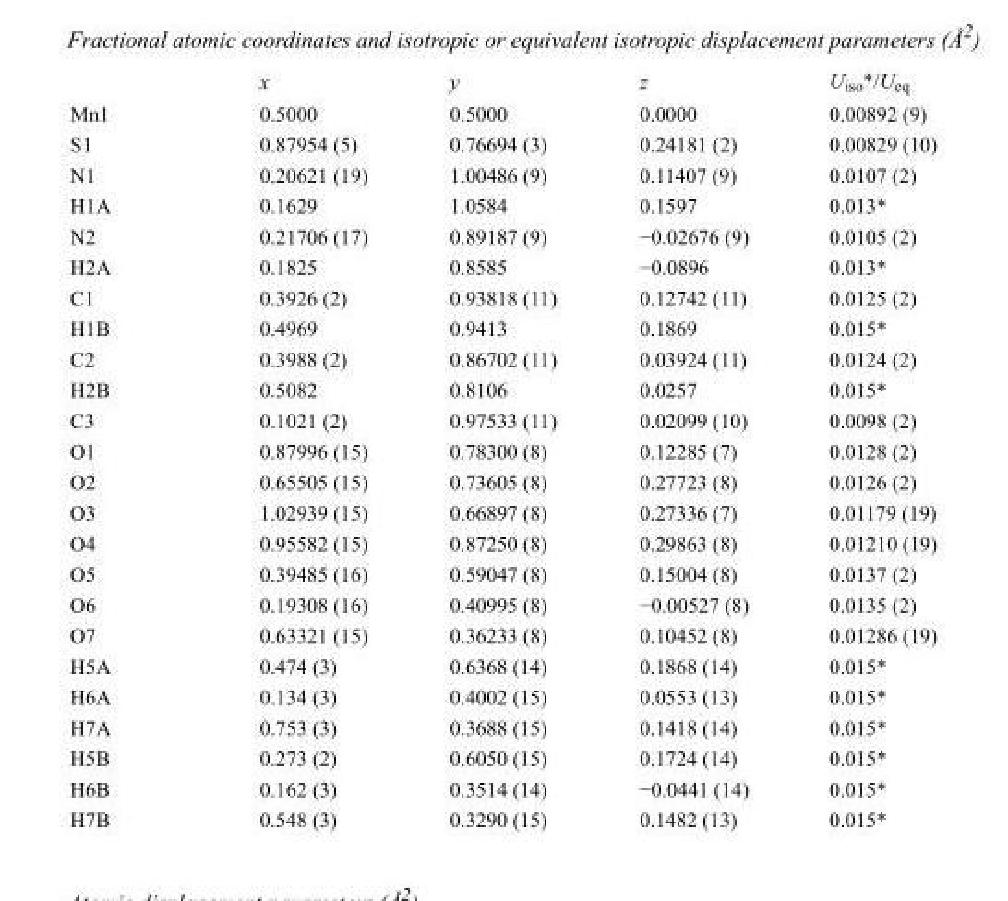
<table><thead><tr><td></td><td>x</td><td>y</td><td>z</td><td>U<sub>iso</sub>*/U<sub>eq</sub></td></tr></thead><tbody><tr><td>Mn1</td><td>0.5000</td><td>0.5000</td><td>0.0000</td><td>0.00892 (9)</td></tr><tr><td>S1</td><td>0.87954 (5)</td><td>0.76694 (3)</td><td>0.24181 (2)</td><td>0.00829 (10)</td></tr><tr><td>N1</td><td>0.20621 (19)</td><td>1.00486 (9)</td><td>0.11407 (9)</td><td>0.0107 (2)</td></tr><tr><td>H1A</td><td>0.1629</td><td>1.0584</td><td>0.1597</td><td>0.013*</td></tr><tr><td>N2</td><td>0.21706 (17)</td><td>0.89187 (9)</td><td>−0.02676 (9)</td><td>0.0105 (2)</td></tr><tr><td>H2A</td><td>0.1825</td><td>0.8585</td><td>−0.0896</td><td>0.013*</td></tr><tr><td>C1</td><td>0.3926 (2)</td><td>0.93818 (11)</td><td>0.12742 (11)</td><td>0.0125 (2)</td></tr><tr><td>H1B</td><td>0.4969</td><td>0.9413</td><td>0.1869</td><td>0.015*</td></tr><tr><td>C2</td><td>0.3988 (2)</td><td>0.86702 (11)</td><td>0.03924 (11)</td><td>0.0124 (2)</td></tr><tr><td>H2B</td><td>0.5082</td><td>0.8106</td><td>0.0257</td><td>0.015*</td></tr><tr><td>C3</td><td>0.1021 (2)</td><td>0.97533 (11)</td><td>0.02099 (10)</td><td>0.0098 (2)</td></tr><tr><td>O1</td><td>0.87996 (15)</td><td>0.78300 (8)</td><td>0.12285 (7)</td><td>0.0128 (2)</td></tr><tr><td>O2</td><td>0.65505 (15)</td><td>0.73605 (8)</td><td>0.27723 (8)</td><td>0.0126 (2)</td></tr><tr><td>O3</td><td>1.02939 (15)</td><td>0.66897 (8)</td><td>0.27336 (7)</td><td>0.01179 (19)</td></tr><tr><td>O4</td><td>0.95582 (15)</td><td>0.87250 (8)</td><td>0.29863 (8)</td><td>0.01210 (19)</td></tr><tr><td>O5</td><td>0.39485 (16)</td><td>0.59047 (8)</td><td>0.15004 (8)</td><td>0.0137 (2)</td></tr><tr><td>O6</td><td>0.19308 (16)</td><td>0.40995 (8)</td><td>−0.00527 (8)</td><td>0.0135 (2)</td></tr><tr><td>O7</td><td>0.63321 (15)</td><td>0.36233 (8)</td><td>0.10452 (8)</td><td>0.01286 (19)</td></tr><tr><td>H5A</td><td>0.474 (3)</td><td>0.6368 (14)</td><td>0.1868 (14)</td><td>0.015*</td></tr><tr><td>H6A</td><td>0.134 (3)</td><td>0.4002 (15)</td><td>0.0553 (13)</td><td>0.015*</td></tr><tr><td>H7A</td><td>0.753 (3)</td><td>0.3688 (15)</td><td>0.1418 (14)</td><td>0.015*</td></tr><tr><td>H5B</td><td>0.273 (2)</td><td>0.6050 (15)</td><td>0.1724 (14)</td><td>0.015*</td></tr><tr><td>H6B</td><td>0.162 (3)</td><td>0.3514 (14)</td><td>−0.0441 (14)</td><td>0.015*</td></tr><tr><td>H7B</td><td>0.548 (3)</td><td>0.3290 (15)</td><td>0.1482 (13)</td><td>0.015*</td></tr></tbody></table>